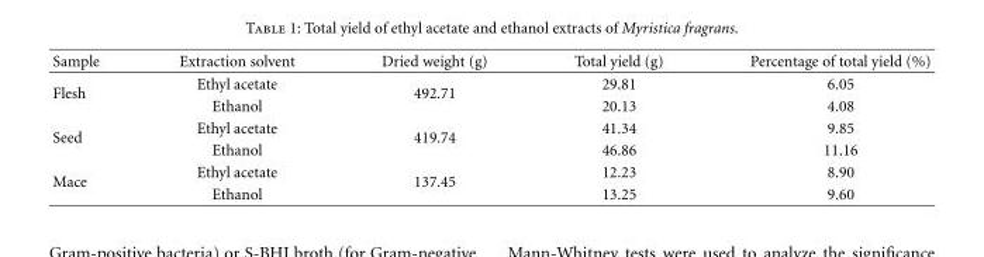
<table><thead><tr><td>Sample</td><td>Extraction solvent</td><td>Dried weight (g)</td><td>Total yield (g)</td><td>Percentage of total yield (%)</td></tr></thead><tbody><tr><td rowspan="2">Flesh</td><td>Ethyl acetate</td><td rowspan="2">492.71</td><td>29.81</td><td>6.05</td></tr><tr><td>Ethanol</td><td>20.13</td><td>4.08</td></tr><tr><td rowspan="2">Seed</td><td>Ethyl acetate</td><td rowspan="2">419.74</td><td>41.34</td><td>9.85</td></tr><tr><td>Ethanol</td><td>46.86</td><td>11.16</td></tr><tr><td rowspan="2">Mace</td><td>Ethyl acetate</td><td rowspan="2">137.45</td><td>12.23</td><td>8.90</td></tr><tr><td>Ethanol</td><td>13.25</td><td>9.60</td></tr></tbody></table>